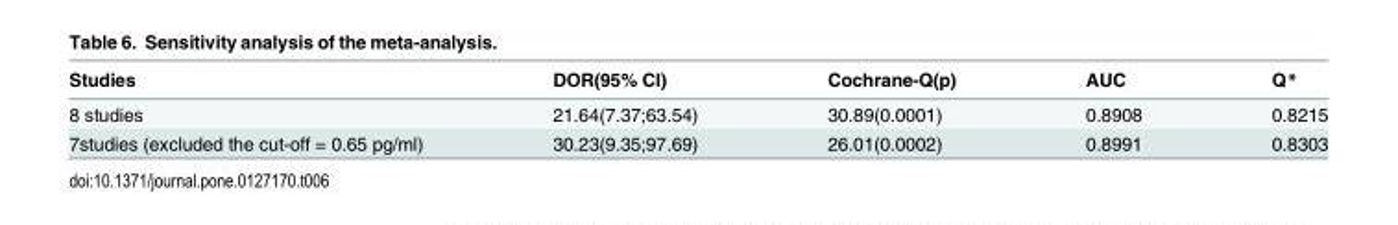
<table><thead><tr><td>Studies</td><td>DOR(95% CI)</td><td>Cochrane-Q(p)</td><td>AUC</td><td>Q*</td></tr></thead><tbody><tr><td>8 studies</td><td>21.64(7.37;63.54)</td><td>30.89(0.0001)</td><td>0.8908</td><td>0.8215</td></tr><tr><td>7studies (excluded the cut-off = 0.65 pg/ml)</td><td>30.23(9.35;97.69)</td><td>26.01(0.0002)</td><td>0.8991</td><td>0.8303</td></tr></tbody></table>